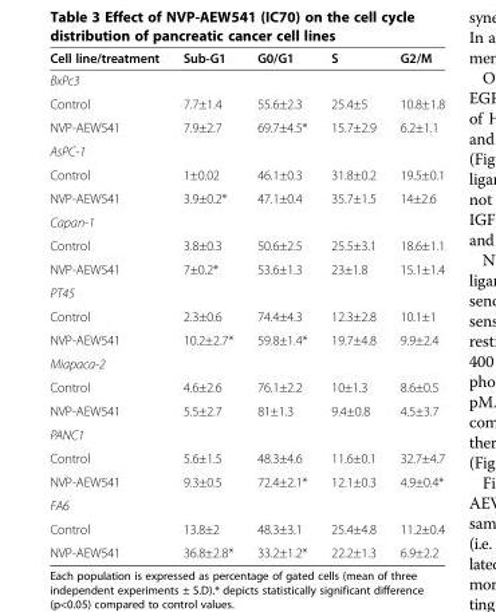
<table><thead><tr><td>Cell line/treatment</td><td>Sub-G1</td><td>G0/G1</td><td>S</td><td>G2/M</td></tr></thead><tbody><tr><td colspan="5">BxPc3</td></tr><tr><td>Control</td><td>7.7±1.4</td><td>55.6±2.3</td><td>25.4±5</td><td>10.8±1.8</td></tr><tr><td>NVP-AEW541</td><td>7.9±2.7</td><td>69.7±4.5*</td><td>15.7±2.9</td><td>6.2±1.1</td></tr><tr><td colspan="5">AsPC-1</td></tr><tr><td>Control</td><td>1±0.02</td><td>46.1±0.3</td><td>31.8±0.2</td><td>19.5±0.1</td></tr><tr><td>NVP-AEW541</td><td>3.9±0.2*</td><td>47.1±0.4</td><td>35.7±1.5</td><td>14±2.6</td></tr><tr><td colspan="5">Capan-1</td></tr><tr><td>Control</td><td>3.8±0.3</td><td>50.6±2.5</td><td>25.5±3.1</td><td>18.6±1.1</td></tr><tr><td>NVP-AEW541</td><td>7±0.2*</td><td>53.6±1.3</td><td>23±1.8</td><td>15.1±1.4</td></tr><tr><td colspan="5">PT45</td></tr><tr><td>Control</td><td>2.3±0.6</td><td>74.4±4.3</td><td>12.3±2.8</td><td>10.1±1</td></tr><tr><td>NVP-AEW541</td><td>10.2±2.7*</td><td>59.8±1.4*</td><td>19.7±4.8</td><td>9.9±2.4</td></tr><tr><td colspan="5">Miapaca-2</td></tr><tr><td>Control</td><td>4.6±2.6</td><td>76.1±2.2</td><td>10±1.3</td><td>8.6±0.5</td></tr><tr><td>NVP-AEW541</td><td>5.5±2.7</td><td>81±1.3</td><td>9.4±0.8</td><td>4.5±3.7</td></tr><tr><td colspan="5">PANC1</td></tr><tr><td>Control</td><td>5.6±1.5</td><td>48.3±4.6</td><td>11.6±0.1</td><td>32.7±4.7</td></tr><tr><td>NVP-AEW541</td><td>9.3±0.5</td><td>72.4±2.1*</td><td>12.1±0.3</td><td>4.9±0.4*</td></tr><tr><td colspan="5">FA6</td></tr><tr><td>Control</td><td>13.8±2</td><td>48.3±3.1</td><td>25.4±4.8</td><td>11.2±0.4</td></tr><tr><td>NVP-AEW541</td><td>36.8±2.8*</td><td>33.2±1.2*</td><td>22.2±1.3</td><td>6.9±2.2</td></tr></tbody></table>